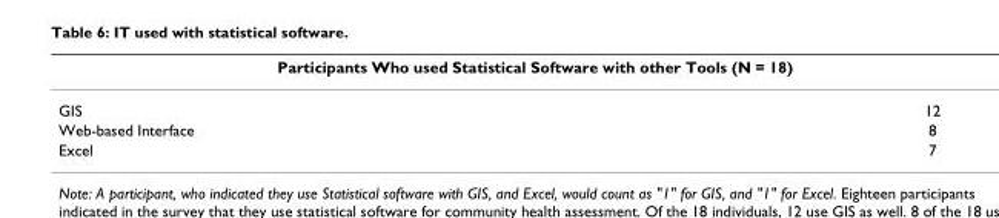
<table><thead><tr><td colspan="2">Participants Who used Statistical Software with other Tools (N = 18)</td></tr><tr><td>GIS</td><td>12</td></tr></thead><tbody><tr><td>Web-based Interface</td><td>8</td></tr><tr><td>Excel</td><td>7</td></tr></tbody></table>